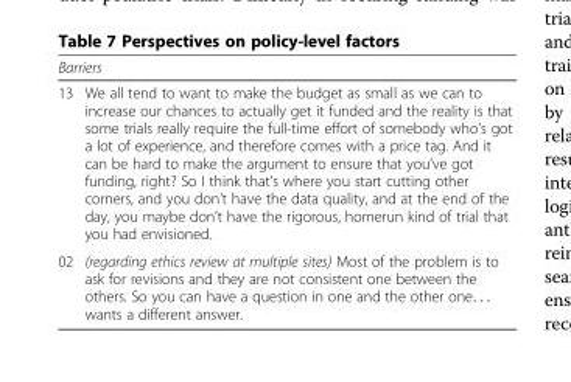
<table><thead><tr><td colspan="2">Barriers</td></tr><tr><td>13</td><td>We all tend to want to make the budget as small as we can to increase our chances to actually get it funded and the reality is that some trials really require the full-time effort of somebody who’s got a lot of experience, and therefore comes with a price tag. And it can be hard to make the argument to ensure that you’ve got funding, right? So I think that’s where you start cutting other corners, and you don’t have the data quality, and at the end of the day, you maybe don’t have the rigorous, homerun kind of trial that you had envisioned.</td></tr></thead><tbody><tr><td>02</td><td>(regarding ethics review at multiple sites) Most of the problem is to ask for revisions and they are not consistent one between the others. So you can have a question in one and the other one. . . wants a different answer.</td></tr></tbody></table>